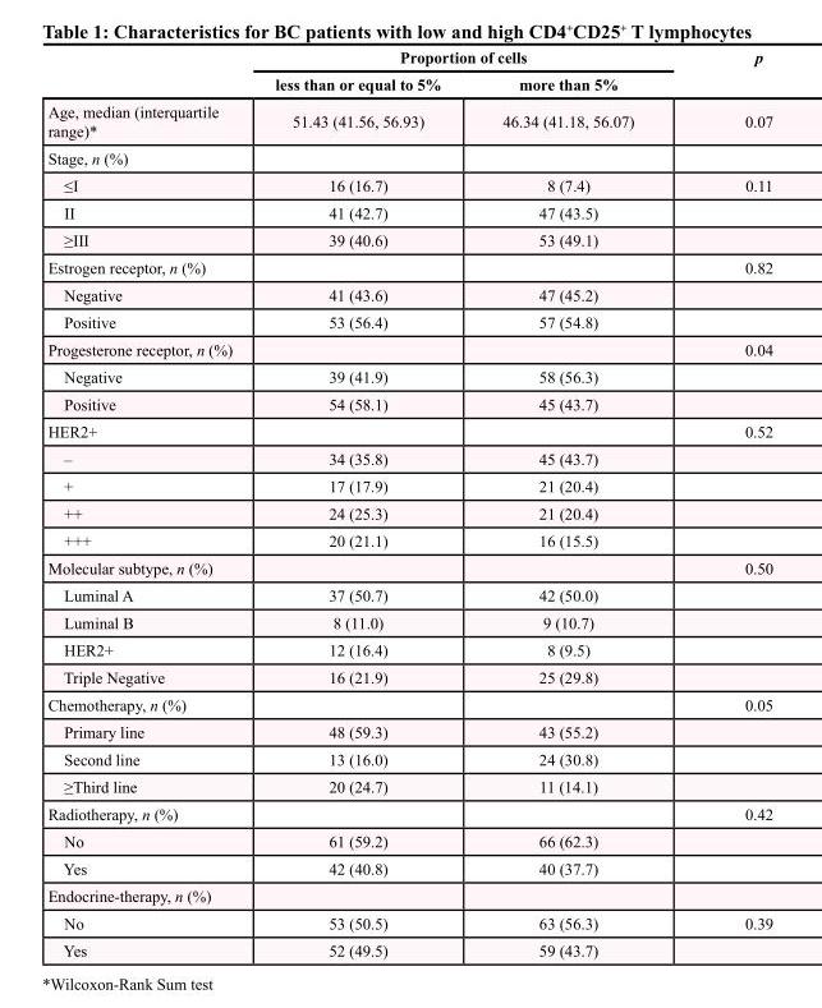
<table><thead><tr><td rowspan="2"></td><td colspan="2">Proportion of cells</td><td rowspan="2">p</td></tr><tr><td>less than or equal to 5%</td><td>more than 5%</td></tr></thead><tbody><tr><td>Age, median (interquartile range)*</td><td>51.43 (41.56, 56.93)</td><td>46.34 (41.18, 56.07)</td><td>0.07</td></tr><tr><td colspan="4">Stage, n (%)</td></tr><tr><td>≤I</td><td>16 (16.7)</td><td>8 (7.4)</td><td>0.11</td></tr><tr><td>II</td><td>41 (42.7)</td><td>47 (43.5)</td><td></td></tr><tr><td>≥III</td><td>39 (40.6)</td><td>53 (49.1)</td><td></td></tr><tr><td>Estrogen receptor, n (%)</td><td></td><td></td><td>0.82</td></tr><tr><td>Negative</td><td>41 (43.6)</td><td>47 (45.2)</td><td></td></tr><tr><td>Positive</td><td>53 (56.4)</td><td>57 (54.8)</td><td></td></tr><tr><td>Progesterone receptor, n (%)</td><td></td><td></td><td>0.04</td></tr><tr><td>Negative</td><td>39 (41.9)</td><td>58 (56.3)</td><td></td></tr><tr><td>Positive</td><td>54 (58.1)</td><td>45 (43.7)</td><td></td></tr><tr><td>HER2+</td><td></td><td></td><td>0.52</td></tr><tr><td>–</td><td>34 (35.8)</td><td>45 (43.7)</td><td></td></tr><tr><td>+</td><td>17 (17.9)</td><td>21 (20.4)</td><td></td></tr><tr><td>++</td><td>24 (25.3)</td><td>21 (20.4)</td><td></td></tr><tr><td>+++</td><td>20 (21.1)</td><td>16 (15.5)</td><td></td></tr><tr><td>Molecular subtype, n (%)</td><td></td><td></td><td>0.50</td></tr><tr><td>Luminal A</td><td>37 (50.7)</td><td>42 (50.0)</td><td></td></tr><tr><td>Luminal B</td><td>8 (11.0)</td><td>9 (10.7)</td><td></td></tr><tr><td>HER2+</td><td>12 (16.4)</td><td>8 (9.5)</td><td></td></tr><tr><td>Triple Negative</td><td>16 (21.9)</td><td>25 (29.8)</td><td></td></tr><tr><td>Chemotherapy, n (%)</td><td></td><td></td><td>0.05</td></tr><tr><td>Primary line</td><td>48 (59.3)</td><td>43 (55.2)</td><td></td></tr><tr><td>Second line</td><td>13 (16.0)</td><td>24 (30.8)</td><td></td></tr><tr><td>≥Third line</td><td>20 (24.7)</td><td>11 (14.1)</td><td></td></tr><tr><td>Radiotherapy, n (%)</td><td></td><td></td><td>0.42</td></tr><tr><td>No</td><td>61 (59.2)</td><td>66 (62.3)</td><td></td></tr><tr><td>Yes</td><td>42 (40.8)</td><td>40 (37.7)</td><td></td></tr><tr><td colspan="4">Endocrine-therapy, n (%)</td></tr><tr><td>No</td><td>53 (50.5)</td><td>63 (56.3)</td><td>0.39</td></tr><tr><td>Yes</td><td>52 (49.5)</td><td>59 (43.7)</td><td></td></tr></tbody></table>